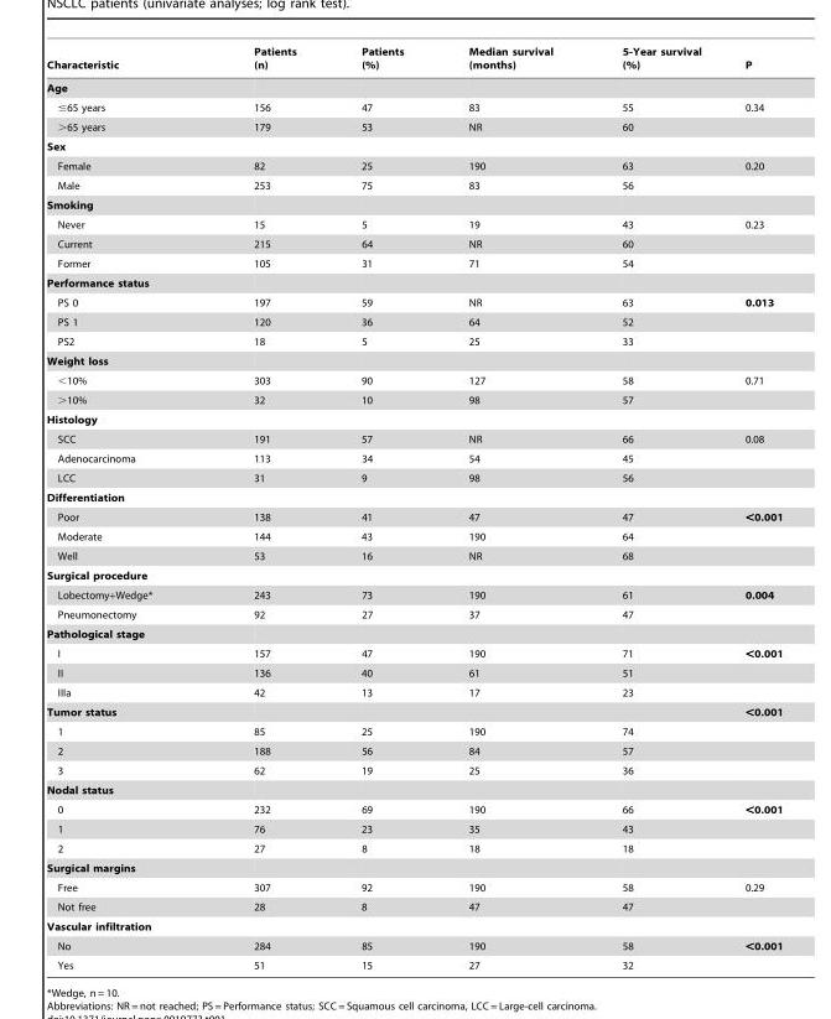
<table><thead><tr><td>Characteristic</td><td>Patients (n)</td><td>Patients (%)</td><td>Median survival (months)</td><td>5-Year survival (%)</td><td>P</td></tr></thead><tbody><tr><td colspan="6">Age</td></tr><tr><td>≤65 years</td><td>156</td><td>47</td><td>83</td><td>55</td><td>0.34</td></tr><tr><td>&gt;65 years</td><td>179</td><td>53</td><td>NR</td><td>60</td><td></td></tr><tr><td colspan="6">Sex</td></tr><tr><td>Female</td><td>82</td><td>25</td><td>190</td><td>63</td><td>0.20</td></tr><tr><td>Male</td><td>253</td><td>75</td><td>83</td><td>56</td><td></td></tr><tr><td colspan="6">Smoking</td></tr><tr><td>Never</td><td>15</td><td>5</td><td>19</td><td>43</td><td>0.23</td></tr><tr><td>Current</td><td>215</td><td>64</td><td>NR</td><td>60</td><td></td></tr><tr><td>Former</td><td>105</td><td>31</td><td>71</td><td>54</td><td></td></tr><tr><td colspan="6">Performance status</td></tr><tr><td>PS 0</td><td>197</td><td>59</td><td>NR</td><td>63</td><td>0.013</td></tr><tr><td>PS 1</td><td>120</td><td>36</td><td>64</td><td>52</td><td></td></tr><tr><td>PS2</td><td>18</td><td>5</td><td>25</td><td>33</td><td></td></tr><tr><td colspan="6">Weight loss</td></tr><tr><td>&lt;10%</td><td>303</td><td>90</td><td>127</td><td>58</td><td>0.71</td></tr><tr><td>&gt;10%</td><td>32</td><td>10</td><td>98</td><td>57</td><td></td></tr><tr><td colspan="6">Histology</td></tr><tr><td>SCC</td><td>191</td><td>57</td><td>NR</td><td>66</td><td>0.08</td></tr><tr><td>Adenocarcinoma</td><td>113</td><td>34</td><td>54</td><td>45</td><td></td></tr><tr><td>LCC</td><td>31</td><td>9</td><td>98</td><td>56</td><td></td></tr><tr><td colspan="6">Differentiation</td></tr><tr><td>Poor</td><td>138</td><td>41</td><td>47</td><td>47</td><td>&lt;0.001</td></tr><tr><td>Moderate</td><td>144</td><td>43</td><td>190</td><td>64</td><td></td></tr><tr><td>Well</td><td>53</td><td>16</td><td>NR</td><td>68</td><td></td></tr><tr><td colspan="6">Surgical procedure</td></tr><tr><td>Lobectomy+Wedge*</td><td>243</td><td>73</td><td>190</td><td>61</td><td>0.004</td></tr><tr><td>Pneumonectomy</td><td>92</td><td>27</td><td>37</td><td>47</td><td></td></tr><tr><td colspan="6">Pathological stage</td></tr><tr><td>I</td><td>157</td><td>47</td><td>190</td><td>71</td><td>&lt;0.001</td></tr><tr><td>II</td><td>136</td><td>40</td><td>61</td><td>51</td><td></td></tr><tr><td>IIIa</td><td>42</td><td>13</td><td>17</td><td>23</td><td></td></tr><tr><td>Tumor status</td><td></td><td></td><td></td><td></td><td>&lt;0.001</td></tr><tr><td>1</td><td>85</td><td>25</td><td>190</td><td>74</td><td></td></tr><tr><td>2</td><td>188</td><td>56</td><td>84</td><td>57</td><td></td></tr><tr><td>3</td><td>62</td><td>19</td><td>25</td><td>36</td><td></td></tr><tr><td colspan="6">Nodal status</td></tr><tr><td>0</td><td>232</td><td>69</td><td>190</td><td>66</td><td>&lt;0.001</td></tr><tr><td>1</td><td>76</td><td>23</td><td>35</td><td>43</td><td></td></tr><tr><td>2</td><td>27</td><td>8</td><td>18</td><td>18</td><td></td></tr><tr><td colspan="6">Surgical margins</td></tr><tr><td>Free</td><td>307</td><td>92</td><td>190</td><td>58</td><td>0.29</td></tr><tr><td>Not free</td><td>28</td><td>8</td><td>47</td><td>47</td><td></td></tr><tr><td colspan="6">Vascular infiltration</td></tr><tr><td>No</td><td>284</td><td>85</td><td>190</td><td>58</td><td>&lt;0.001</td></tr><tr><td>Yes</td><td>51</td><td>15</td><td>27</td><td>32</td><td></td></tr></tbody></table>